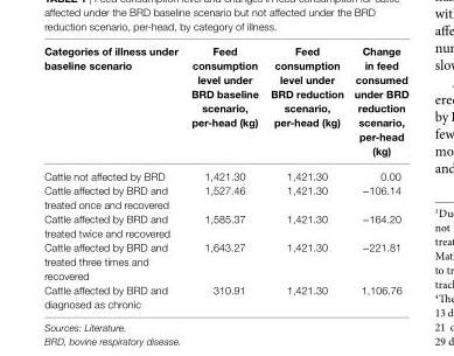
<table><thead><tr><td>categories of illness under baseline scenario</td><td>Feed consumption level under BrD baseline scenario, per-head (kg)</td><td>Feed consumption level under BrD reduction scenario, per-head (kg)</td><td>change in feed consumed under BrD reduction scenario, per-head (kg)</td></tr></thead><tbody><tr><td>Cattle not affected by BRD</td><td>1,421.30</td><td>1,421.30</td><td>0.00</td></tr><tr><td>Cattle affected by BRD and treated once and recovered</td><td>1,527.46</td><td>1,421.30</td><td>−106.14</td></tr><tr><td>Cattle affected by BRD and treated twice and recovered</td><td>1,585.37</td><td>1,421.30</td><td>−164.20</td></tr><tr><td>Cattle affected by BRD and treated three times and recovered</td><td>1,643.27</td><td>1,421.30</td><td>−221.81</td></tr><tr><td>Cattle affected by BRD and diagnosed as chronic</td><td>310.91</td><td>1,421.30</td><td>1,106.76</td></tr></tbody></table>